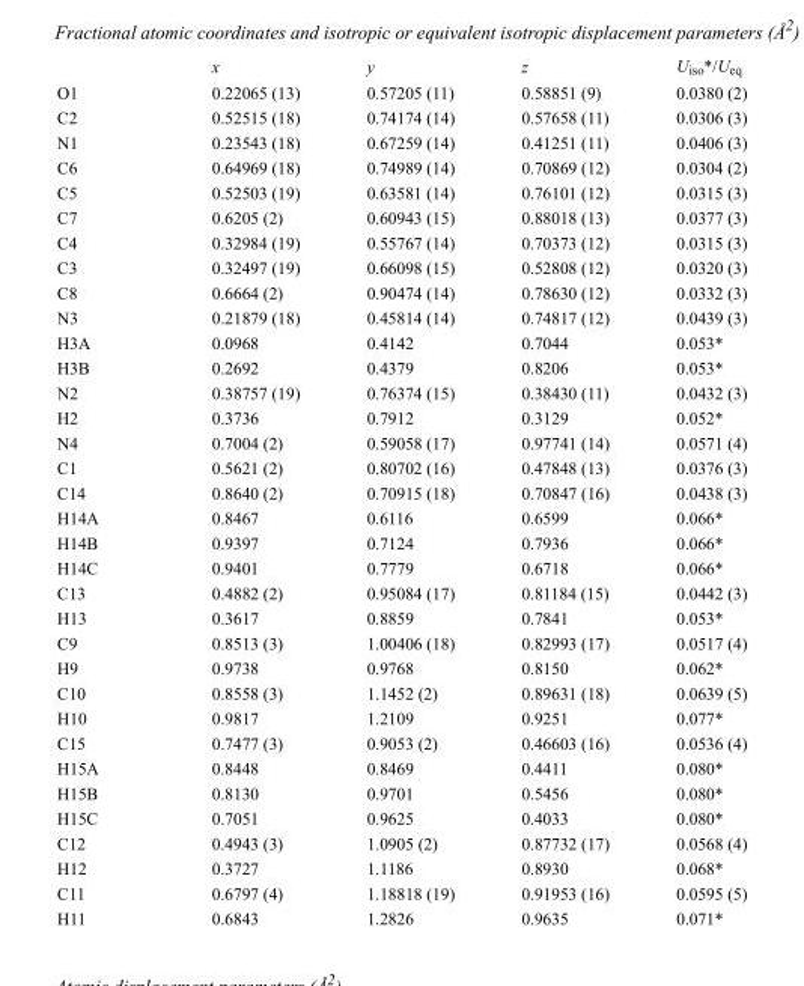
<table><thead><tr><td></td><td>x</td><td>y</td><td>z</td><td>U<sub>iso</sub>*/U<sub>eq</sub></td></tr></thead><tbody><tr><td>O1</td><td>0.22065 (13)</td><td>0.57205 (11)</td><td>0.58851 (9)</td><td>0.0380 (2)</td></tr><tr><td>C2</td><td>0.52515 (18)</td><td>0.74174 (14)</td><td>0.57658 (11)</td><td>0.0306 (3)</td></tr><tr><td>N1</td><td>0.23543 (18)</td><td>0.67259 (14)</td><td>0.41251 (11)</td><td>0.0406 (3)</td></tr><tr><td>C6</td><td>0.64969 (18)</td><td>0.74989 (14)</td><td>0.70869 (12)</td><td>0.0304 (2)</td></tr><tr><td>C5</td><td>0.52503 (19)</td><td>0.63581 (14)</td><td>0.76101 (12)</td><td>0.0315 (3)</td></tr><tr><td>C7</td><td>0.6205 (2)</td><td>0.60943 (15)</td><td>0.88018 (13)</td><td>0.0377 (3)</td></tr><tr><td>C4</td><td>0.32984 (19)</td><td>0.55767 (14)</td><td>0.70373 (12)</td><td>0.0315 (3)</td></tr><tr><td>C3</td><td>0.32497 (19)</td><td>0.66098 (15)</td><td>0.52808 (12)</td><td>0.0320 (3)</td></tr><tr><td>C8</td><td>0.6664 (2)</td><td>0.90474 (14)</td><td>0.78630 (12)</td><td>0.0332 (3)</td></tr><tr><td>N3</td><td>0.21879 (18)</td><td>0.45814 (14)</td><td>0.74817 (12)</td><td>0.0439 (3)</td></tr><tr><td>H3A</td><td>0.0968</td><td>0.4142</td><td>0.7044</td><td>0.053*</td></tr><tr><td>H3B</td><td>0.2692</td><td>0.4379</td><td>0.8206</td><td>0.053*</td></tr><tr><td>N2</td><td>0.38757 (19)</td><td>0.76374 (15)</td><td>0.38430 (11)</td><td>0.0432 (3)</td></tr><tr><td>H2</td><td>0.3736</td><td>0.7912</td><td>0.3129</td><td>0.052*</td></tr><tr><td>N4</td><td>0.7004 (2)</td><td>0.59058 (17)</td><td>0.97741 (14)</td><td>0.0571 (4)</td></tr><tr><td>C1</td><td>0.5621 (2)</td><td>0.80702 (16)</td><td>0.47848 (13)</td><td>0.0376 (3)</td></tr><tr><td>C14</td><td>0.8640 (2)</td><td>0.70915 (18)</td><td>0.70847 (16)</td><td>0.0438 (3)</td></tr><tr><td>H14A</td><td>0.8467</td><td>0.6116</td><td>0.6599</td><td>0.066*</td></tr><tr><td>H14B</td><td>0.9397</td><td>0.7124</td><td>0.7936</td><td>0.066*</td></tr><tr><td>H14C</td><td>0.9401</td><td>0.7779</td><td>0.6718</td><td>0.066*</td></tr><tr><td>C13</td><td>0.4882 (2)</td><td>0.95084 (17)</td><td>0.81184 (15)</td><td>0.0442 (3)</td></tr><tr><td>H13</td><td>0.3617</td><td>0.8859</td><td>0.7841</td><td>0.053*</td></tr><tr><td>C9</td><td>0.8513 (3)</td><td>1.00406 (18)</td><td>0.82993 (17)</td><td>0.0517 (4)</td></tr><tr><td>H9</td><td>0.9738</td><td>0.9768</td><td>0.8150</td><td>0.062*</td></tr><tr><td>C10</td><td>0.8558 (3)</td><td>1.1452 (2)</td><td>0.89631 (18)</td><td>0.0639 (5)</td></tr><tr><td>H10</td><td>0.9817</td><td>1.2109</td><td>0.9251</td><td>0.077*</td></tr><tr><td>C15</td><td>0.7477 (3)</td><td>0.9053 (2)</td><td>0.46603 (16)</td><td>0.0536 (4)</td></tr><tr><td>H15A</td><td>0.8448</td><td>0.8469</td><td>0.4411</td><td>0.080*</td></tr><tr><td>H15B</td><td>0.8130</td><td>0.9701</td><td>0.5456</td><td>0.080*</td></tr><tr><td>H15C</td><td>0.7051</td><td>0.9625</td><td>0.4033</td><td>0.080*</td></tr><tr><td>C12</td><td>0.4943 (3)</td><td>1.0905 (2)</td><td>0.87732 (17)</td><td>0.0568 (4)</td></tr><tr><td>H12</td><td>0.3727</td><td>1.1186</td><td>0.8930</td><td>0.068*</td></tr><tr><td>C11</td><td>0.6797 (4)</td><td>1.18818 (19)</td><td>0.91953 (16)</td><td>0.0595 (5)</td></tr><tr><td>H11</td><td>0.6843</td><td>1.2826</td><td>0.9635</td><td>0.071*</td></tr></tbody></table>